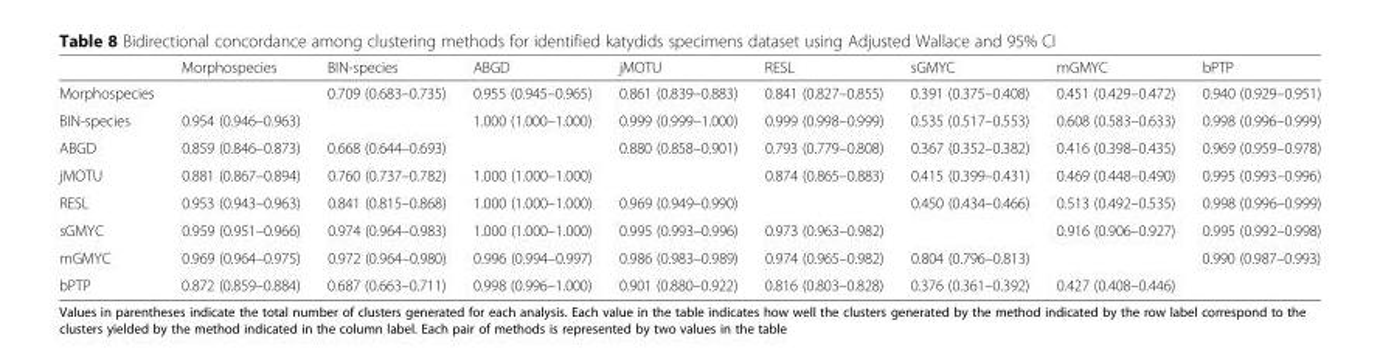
<table><thead><tr><td></td><td>Morphospecies</td><td>BIN-species</td><td>ABGD</td><td>jMOTU</td><td>RESL</td><td>sGMYC</td><td>mGMYC</td><td>bPTP</td></tr></thead><tbody><tr><td>Morphospecies</td><td></td><td>0.709 (0.683–0.735)</td><td>0.955 (0.945–0.965)</td><td>0.861 (0.839–0.883)</td><td>0.841 (0.827–0.855)</td><td>0.391 (0.375–0.408)</td><td>0.451 (0.429–0.472)</td><td>0.940 (0.929–0.951)</td></tr><tr><td>BIN-species</td><td>0.954 (0.946–0.963)</td><td></td><td>1.000 (1.000–1.000)</td><td>0.999 (0.999–1.000)</td><td>0.999 (0.998–0.999)</td><td>0.535 (0.517–0.553)</td><td>0.608 (0.583–0.633)</td><td>0.998 (0.996–0.999)</td></tr><tr><td>ABGD</td><td>0.859 (0.846–0.873)</td><td>0.668 (0.644–0.693)</td><td></td><td>0.880 (0.858–0.901)</td><td>0.793 (0.779–0.808)</td><td>0.367 (0.352–0.382)</td><td>0.416 (0.398–0.435)</td><td>0.969 (0.959–0.978)</td></tr><tr><td>jMOTU</td><td>0.881 (0.867–0.894)</td><td>0.760 (0.737–0.782)</td><td>1.000 (1.000–1.000)</td><td></td><td>0.874 (0.865–0.883)</td><td>0.415 (0.399–0.431)</td><td>0.469 (0.448–0.490)</td><td>0.995 (0.993–0.996)</td></tr><tr><td>RESL</td><td>0.953 (0.943–0.963)</td><td>0.841 (0.815–0.868)</td><td>1.000 (1.000–1.000)</td><td>0.969 (0.949–0.990)</td><td></td><td>0.450 (0.434–0.466)</td><td>0.513 (0.492–0.535)</td><td>0.998 (0.996–0.999)</td></tr><tr><td>sGMYC</td><td>0.959 (0.951–0.966)</td><td>0.974 (0.964–0.983)</td><td>1.000 (1.000–1.000)</td><td>0.995 (0.993–0.996)</td><td>0.973 (0.963–0.982)</td><td></td><td>0.916 (0.906–0.927)</td><td>0.995 (0.992–0.998)</td></tr><tr><td>mGMYC</td><td>0.969 (0.964–0.975)</td><td>0.972 (0.964–0.980)</td><td>0.996 (0.994–0.997)</td><td>0.986 (0.983–0.989)</td><td>0.974 (0.965–0.982)</td><td>0.804 (0.796–0.813)</td><td></td><td>0.990 (0.987–0.993)</td></tr><tr><td>bPTP</td><td>0.872 (0.859–0.884)</td><td>0.687 (0.663–0.711)</td><td>0.998 (0.996–1.000)</td><td>0.901 (0.880–0.922)</td><td>0.816 (0.803–0.828)</td><td>0.376 (0.361–0.392)</td><td>0.427 (0.408–0.446)</td><td></td></tr></tbody></table>